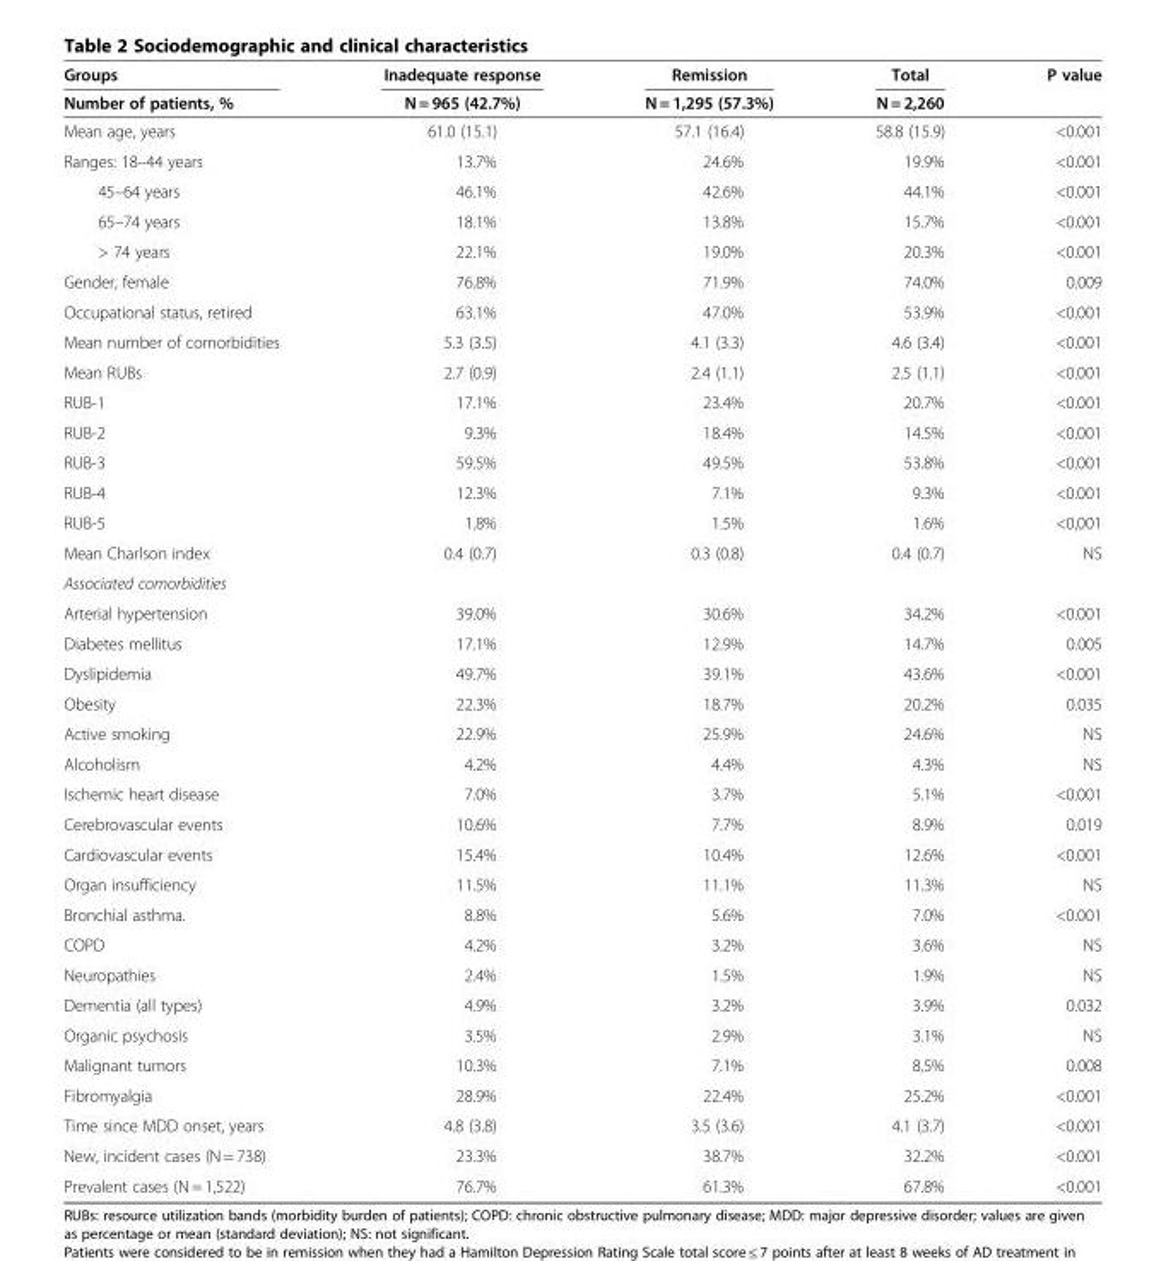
<table><thead><tr><td rowspan="2">Groups Number of patients, %</td><td rowspan="2">Inadequate response N = 965 (42.7%)</td><td rowspan="2">Remission N = 1,295 (57.3%)</td><td rowspan="2">Total N = 2,260</td><td rowspan="2">P value</td></tr><tr></tr></thead><tbody><tr><td>Mean age, years</td><td>61.0 (15.1)</td><td>57.1 (16.4)</td><td>58.8 (15.9)</td><td>&lt;0.001</td></tr><tr><td>Ranges: 18–44 years</td><td>13.7%</td><td>24.6%</td><td>19.9%</td><td>&lt;0.001</td></tr><tr><td>45–64 years</td><td>46.1%</td><td>42.6%</td><td>44.1%</td><td>&lt;0.001</td></tr><tr><td>65–74 years</td><td>18.1%</td><td>13.8%</td><td>15.7%</td><td>&lt;0.001</td></tr><tr><td>&gt; 74 years</td><td>22.1%</td><td>19.0%</td><td>20.3%</td><td>&lt;0.001</td></tr><tr><td>Gender, female</td><td>76.8%</td><td>71.9%</td><td>74.0%</td><td>0.009</td></tr><tr><td>Occupational status, retired</td><td>63.1%</td><td>47.0%</td><td>53.9%</td><td>&lt;0.001</td></tr><tr><td>Mean number of comorbidities</td><td>5.3 (3.5)</td><td>4.1 (3.3)</td><td>4.6 (3.4)</td><td>&lt;0.001</td></tr><tr><td>Mean RUBs</td><td>2.7 (0.9)</td><td>2.4 (1.1)</td><td>2.5 (1.1)</td><td>&lt;0.001</td></tr><tr><td>RUB-1</td><td>17.1%</td><td>23.4%</td><td>20.7%</td><td>&lt;0.001</td></tr><tr><td>RUB-2</td><td>9.3%</td><td>18.4%</td><td>14.5%</td><td>&lt;0.001</td></tr><tr><td>RUB-3</td><td>59.5%</td><td>49.5%</td><td>53.8%</td><td>&lt;0.001</td></tr><tr><td>RUB-4</td><td>12.3%</td><td>7.1%</td><td>9.3%</td><td>&lt;0.001</td></tr><tr><td>RUB-5</td><td>1.8%</td><td>1.5%</td><td>1.6%</td><td>&lt;0,001</td></tr><tr><td>Mean Charlson index</td><td>0.4 (0.7)</td><td>0.3 (0.8)</td><td>0.4 (0.7)</td><td>NS</td></tr><tr><td colspan="5">Associated comorbidities</td></tr><tr><td>Arterial hypertension</td><td>39.0%</td><td>30.6%</td><td>34.2%</td><td>&lt;0.001</td></tr><tr><td>Diabetes mellitus</td><td>17.1%</td><td>12.9%</td><td>14.7%</td><td>0.005</td></tr><tr><td>Dyslipidemia</td><td>49.7%</td><td>39.1%</td><td>43.6%</td><td>&lt;0.001</td></tr><tr><td>Obesity</td><td>22.3%</td><td>18.7%</td><td>20.2%</td><td>0.035</td></tr><tr><td>Active smoking</td><td>22.9%</td><td>25.9%</td><td>24.6%</td><td>NS</td></tr><tr><td>Alcoholism</td><td>4.2%</td><td>4.4%</td><td>4.3%</td><td>NS</td></tr><tr><td>Ischemic heart disease</td><td>7.0%</td><td>3.7%</td><td>5.1%</td><td>&lt;0.001</td></tr><tr><td>Cerebrovascular events</td><td>10.6%</td><td>7.7%</td><td>8.9%</td><td>0.019</td></tr><tr><td>Cardiovascular events</td><td>15.4%</td><td>10.4%</td><td>12.6%</td><td>&lt;0.001</td></tr><tr><td>Organ insufficiency</td><td>11.5%</td><td>11.1%</td><td>11.3%</td><td>NS</td></tr><tr><td>Bronchial asthma.</td><td>8.8%</td><td>5.6%</td><td>7.0%</td><td>&lt;0.001</td></tr><tr><td>COPD</td><td>4.2%</td><td>3.2%</td><td>3.6%</td><td>NS</td></tr><tr><td>Neuropathies</td><td>2.4%</td><td>1.5%</td><td>1.9%</td><td>NS</td></tr><tr><td>Dementia (all types)</td><td>4.9%</td><td>3.2%</td><td>3.9%</td><td>0.032</td></tr><tr><td>Organic psychosis</td><td>3.5%</td><td>2.9%</td><td>3.1%</td><td>NS</td></tr><tr><td>Malignant tumors</td><td>10.3%</td><td>7.1%</td><td>8.5%</td><td>0.008</td></tr><tr><td>Fibromyalgia</td><td>28.9%</td><td>22.4%</td><td>25.2%</td><td>&lt;0.001</td></tr><tr><td>Time since MDD onset, years</td><td>4.8 (3.8)</td><td>3.5 (3.6)</td><td>4.1 (3.7)</td><td>&lt;0.001</td></tr><tr><td>New, incident cases (N = 738)</td><td>23.3%</td><td>38.7%</td><td>32.2%</td><td>&lt;0.001</td></tr><tr><td>Prevalent cases (N = 1,522)</td><td>76.7%</td><td>61.3%</td><td>67.8%</td><td>&lt;0.001</td></tr></tbody></table>